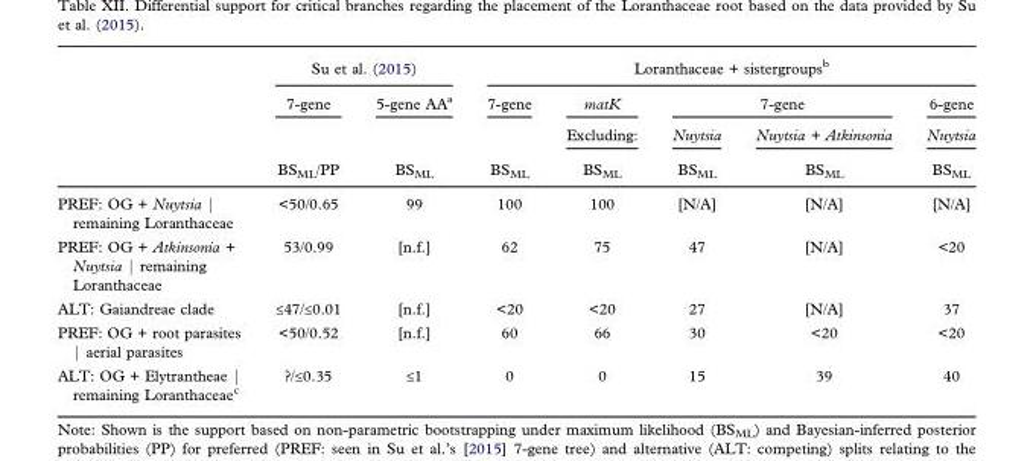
<table><thead><tr><td rowspan="4"></td><td colspan="2">Su et al. (2015)</td><td colspan="5">Loranthaceae + sistergroups<sup>b</sup></td></tr><tr><td rowspan="3">7-gene BS<sub>ML</sub>/PP</td><td rowspan="3">5-gene AA<sup>a</sup> BS<sub>ML</sub></td><td rowspan="3">7-gene BS<sub>ML</sub></td><td rowspan="3">matK Excluding: BS<sub>ML</sub></td><td colspan="2">7-gene</td><td rowspan="3">6-gene Nuytsia BS<sub>ML</sub></td></tr><tr><td rowspan="2">Nuytsia BS<sub>ML</sub></td><td rowspan="2">Nuytsia + Atkinsonia BS<sub>ML</sub></td></tr><tr></tr></thead><tbody><tr><td>PREF: OG + Nuytsia | remaining Loranthaceae</td><td>&lt;50/0.65</td><td>99</td><td>100</td><td>100</td><td>[N/A]</td><td>[N/A]</td><td>[N/A]</td></tr><tr><td>PREF: OG + Atkinsonia + Nuytsia | remaining Loranthaceae</td><td>53/0.99</td><td>[n.f.]</td><td>62</td><td>75</td><td>47</td><td>[N/A]</td><td>&lt;20</td></tr><tr><td>ALT: Gaiandreae clade</td><td>≤47/≤0.01</td><td>[n.f.]</td><td>&lt;20</td><td>&lt;20</td><td>27</td><td>[N/A]</td><td>37</td></tr><tr><td>PREF: OG + root parasites | aerial parasites</td><td>&lt;50/0.52</td><td>[n.f.]</td><td>60</td><td>66</td><td>30</td><td>&lt;20</td><td>&lt;20</td></tr><tr><td>ALT: OG + Elytrantheae | remaining Loranthaceae<sup>c</sup></td><td>?/≤0.35</td><td>≤1</td><td>0</td><td>0</td><td>15</td><td>39</td><td>40</td></tr></tbody></table>